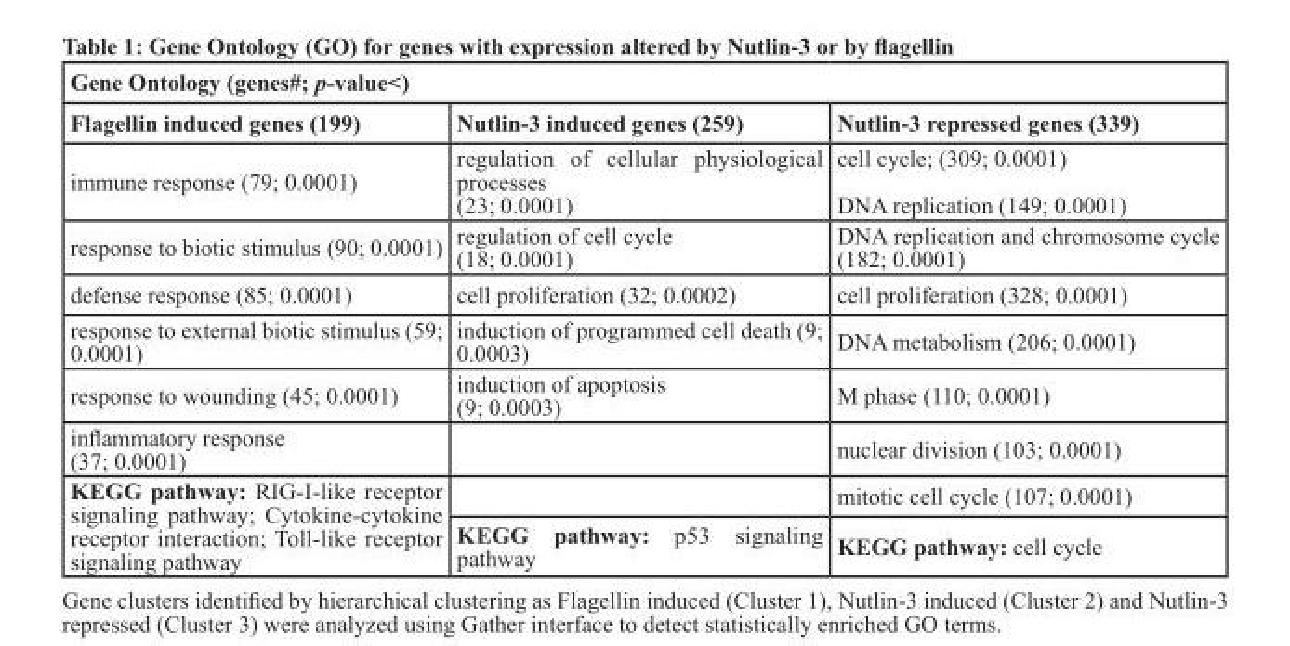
<table><thead><tr><td colspan="3">Gene Ontology (genes#; p-value&lt;)</td></tr><tr><td>Flagellin induced genes (199)</td><td>Nutlin-3 induced genes (259)</td><td>Nutlin-3 repressed genes (339)</td></tr></thead><tbody><tr><td>immune response (79; 0.0001)</td><td>regulation of cellular physiological processes (23; 0.0001)</td><td>cell cycle; (309; 0.0001) DNA replication (149; 0.0001)</td></tr><tr><td>response to biotic stimulus (90; 0.0001)</td><td>regulation of cell cycle (18; 0.0001)</td><td>DNA replication and chromosome cycle (182; 0.0001)</td></tr><tr><td>defense response (85; 0.0001)</td><td>cell proliferation (32; 0.0002)</td><td>cell proliferation (328; 0.0001)</td></tr><tr><td>response to external biotic stimulus (59; 0.0001)</td><td>induction of programmed cell death (9; 0.0003)</td><td>DNA metabolism (206; 0.0001)</td></tr><tr><td>response to wounding (45; 0.0001)</td><td>induction of apoptosis (9; 0.0003)</td><td>M phase (110; 0.0001)</td></tr><tr><td>inflammatory response (37; 0.0001)</td><td></td><td>nuclear division (103; 0.0001)</td></tr><tr><td rowspan="2">KEGG pathway: RIG-I-like receptor signaling pathway; Cytokine-cytokine receptor interaction; Toll-like receptor signaling pathway</td><td></td><td>mitotic cell cycle (107; 0.0001)</td></tr><tr><td>KEGG pathway: p53 signaling pathway</td><td>KEGG pathway: cell cycle</td></tr></tbody></table>